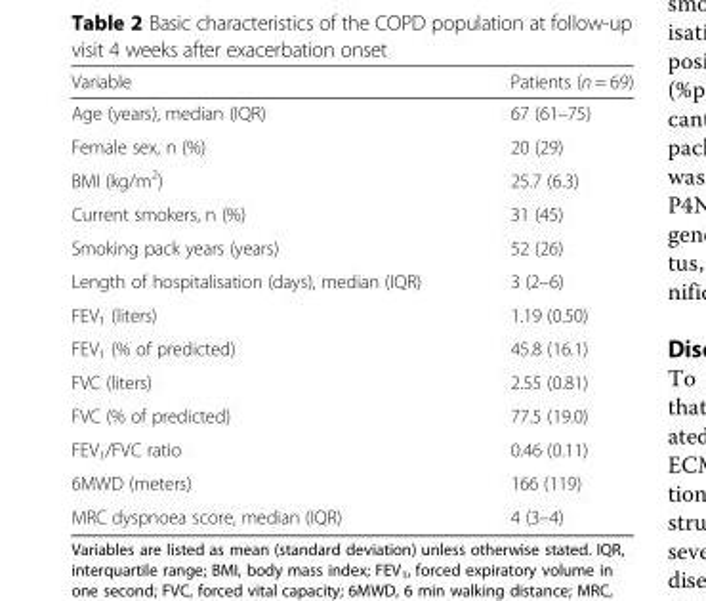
<table><thead><tr><td>Variable</td><td>Patients (n = 69)</td></tr></thead><tbody><tr><td>Age (years), median (IQR)</td><td>67 (61–75)</td></tr><tr><td>Female sex, n (%)</td><td>20 (29)</td></tr><tr><td>BMI (kg/m<sup>2</sup>)</td><td>25.7 (6.3)</td></tr><tr><td>Current smokers, n (%)</td><td>31 (45)</td></tr><tr><td>Smoking pack years (years)</td><td>52 (26)</td></tr><tr><td>Length of hospitalisation (days), median (IQR)</td><td>3 (2–6)</td></tr><tr><td>FEV<sub>1</sub> (liters)</td><td>1.19 (0.50)</td></tr><tr><td>FEV<sub>1</sub> (% of predicted)</td><td>45.8 (16.1)</td></tr><tr><td>FVC (liters)</td><td>2.55 (0.81)</td></tr><tr><td>FVC (% of predicted)</td><td>77.5 (19.0)</td></tr><tr><td>FEV<sub>1</sub>/FVC ratio</td><td>0.46 (0.11)</td></tr><tr><td>6MWD (meters)</td><td>166 (119)</td></tr><tr><td>MRC dyspnoea score, median (IQR)</td><td>4 (3–4)</td></tr></tbody></table>